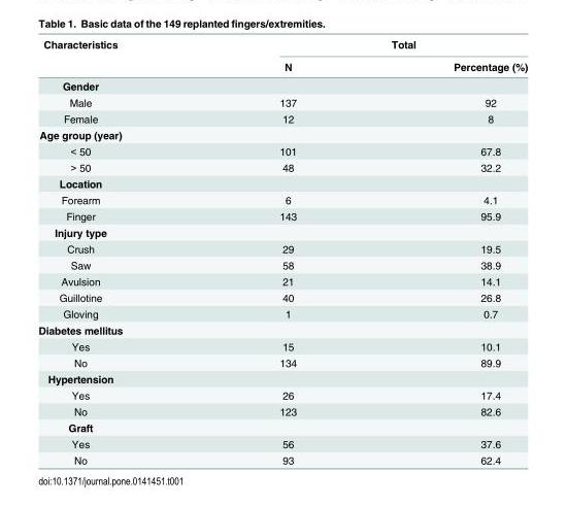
<table><thead><tr><td rowspan="2">Characteristics</td><td colspan="2">Total</td></tr><tr><td>N</td><td>Percentage (%)</td></tr></thead><tbody><tr><td colspan="3">Gender</td></tr><tr><td>Male</td><td>137</td><td>92</td></tr><tr><td>Female</td><td>12</td><td>8</td></tr><tr><td colspan="3">Age group (year)</td></tr><tr><td>&lt; 50</td><td>101</td><td>67.8</td></tr><tr><td>&gt; 50</td><td>48</td><td>32.2</td></tr><tr><td colspan="3">Location</td></tr><tr><td>Forearm</td><td>6</td><td>4.1</td></tr><tr><td>Finger</td><td>143</td><td>95.9</td></tr><tr><td colspan="3">Injury type</td></tr><tr><td>Crush</td><td>29</td><td>19.5</td></tr><tr><td>Saw</td><td>58</td><td>38.9</td></tr><tr><td>Avulsion</td><td>21</td><td>14.1</td></tr><tr><td>Guillotine</td><td>40</td><td>26.8</td></tr><tr><td>Gloving</td><td>1</td><td>0.7</td></tr><tr><td colspan="3">Diabetes mellitus</td></tr><tr><td>Yes</td><td>15</td><td>10.1</td></tr><tr><td>No</td><td>134</td><td>89.9</td></tr><tr><td colspan="3">Hypertension</td></tr><tr><td>Yes</td><td>26</td><td>17.4</td></tr><tr><td>No</td><td>123</td><td>82.6</td></tr><tr><td colspan="3">Graft</td></tr><tr><td>Yes</td><td>56</td><td>37.6</td></tr><tr><td>No</td><td>93</td><td>62.4</td></tr></tbody></table>